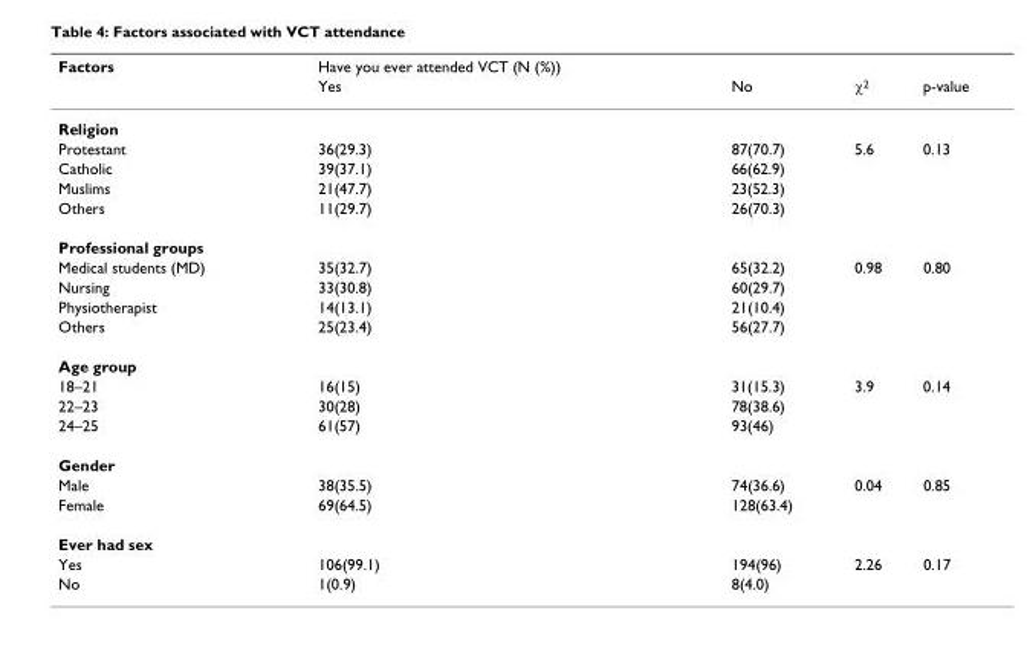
<table><thead><tr><td rowspan="2">Factors</td><td rowspan="2">Have you ever attended VCT (N (%)) Yes</td><td rowspan="2">No</td><td rowspan="2">χ<sup>2</sup></td><td rowspan="2">p-value</td></tr><tr></tr></thead><tbody><tr><td colspan="5">Religion</td></tr><tr><td>Protestant</td><td>36(29.3)</td><td>87(70.7)</td><td>5.6</td><td>0.13</td></tr><tr><td>Catholic</td><td>39(37.1)</td><td>66(62.9)</td><td></td><td></td></tr><tr><td>Muslims</td><td>21(47.7)</td><td>23(52.3)</td><td></td><td></td></tr><tr><td>Others</td><td>11(29.7)</td><td>26(70.3)</td><td></td><td></td></tr><tr><td colspan="5">Professional groups</td></tr><tr><td>Medical students (MD)</td><td>35(32.7)</td><td>65(32.2)</td><td>0.98</td><td>0.80</td></tr><tr><td>Nursing</td><td>33(30.8)</td><td>60(29.7)</td><td></td><td></td></tr><tr><td>Physiotherapist</td><td>14(13.1)</td><td>21(10.4)</td><td></td><td></td></tr><tr><td>Others</td><td>25(23.4)</td><td>56(27.7)</td><td></td><td></td></tr><tr><td colspan="5">Age group</td></tr><tr><td>18–21</td><td>16(15)</td><td>31(15.3)</td><td>3.9</td><td>0.14</td></tr><tr><td>22–23</td><td>30(28)</td><td>78(38.6)</td><td></td><td></td></tr><tr><td>24–25</td><td>61(57)</td><td>93(46)</td><td></td><td></td></tr><tr><td colspan="5">Gender</td></tr><tr><td>Male</td><td>38(35.5)</td><td>74(36.6)</td><td>0.04</td><td>0.85</td></tr><tr><td>Female</td><td>69(64.5)</td><td>128(63.4)</td><td></td><td></td></tr><tr><td colspan="5">Ever had sex</td></tr><tr><td>Yes</td><td>106(99.1)</td><td>194(96)</td><td>2.26</td><td>0.17</td></tr><tr><td>No</td><td>1(0.9)</td><td>8(4.0)</td><td></td><td></td></tr></tbody></table>